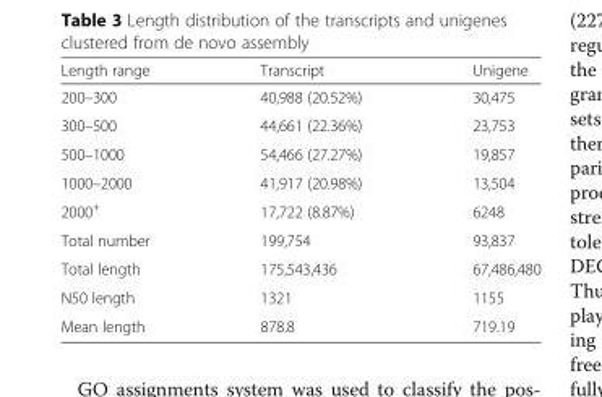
<table><thead><tr><td>Length range</td><td>Transcript</td><td>Unigene</td></tr></thead><tbody><tr><td>200–300</td><td>40,988 (20.52%)</td><td>30,475</td></tr><tr><td>300–500</td><td>44,661 (22.36%)</td><td>23,753</td></tr><tr><td>500–1000</td><td>54,466 (27.27%)</td><td>19,857</td></tr><tr><td>1000–2000</td><td>41,917 (20.98%)</td><td>13,504</td></tr><tr><td>2000<sup>+</sup></td><td>17,722 (8.87%)</td><td>6248</td></tr><tr><td>Total number</td><td>199,754</td><td>93,837</td></tr><tr><td>Total length</td><td>175,543,436</td><td>67,486,480</td></tr><tr><td>N50 length</td><td>1321</td><td>1155</td></tr><tr><td>Mean length</td><td>878.8</td><td>719.19</td></tr></tbody></table>